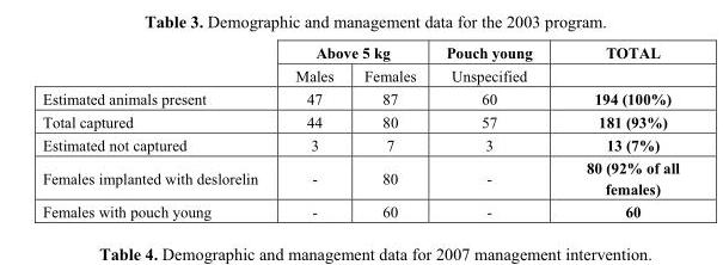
<table><thead><tr><td rowspan="2"></td><td colspan="2">Above 5 kg</td><td rowspan="2">Pouch young Unspecified</td><td rowspan="2">TOTAL</td></tr><tr><td>Males</td><td>Females</td></tr></thead><tbody><tr><td>Estimated animals present</td><td>47</td><td>87</td><td>60</td><td>194 (100%)</td></tr><tr><td>Total captured</td><td>44</td><td>80</td><td>57</td><td>181 (93%)</td></tr><tr><td>Estimated not captured</td><td>3</td><td>7</td><td>3</td><td>13 (7%)</td></tr><tr><td>Females implanted with deslorelin</td><td>-</td><td>80</td><td>-</td><td>80 (92% of all females)</td></tr><tr><td>Females with pouch young</td><td>-</td><td>60</td><td>-</td><td>60</td></tr></tbody></table>